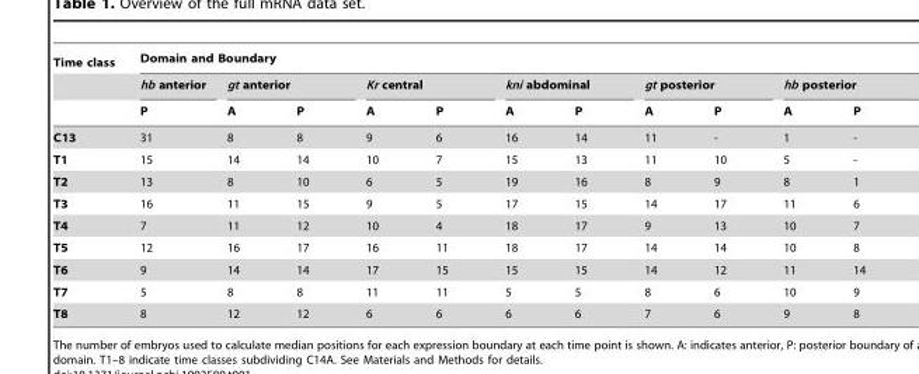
<table><thead><tr><td rowspan="3">Time class</td><td colspan="11">Domain and Boundary</td></tr><tr><td rowspan="2">hb anterior P</td><td colspan="2">gt anterior</td><td colspan="2">Kr central</td><td colspan="2">kni abdominal</td><td colspan="2">gt posterior</td><td colspan="2">hb posterior</td></tr><tr><td>A</td><td>P</td><td>A</td><td>P</td><td>A</td><td>P</td><td>A</td><td>P</td><td>A</td><td>P</td></tr></thead><tbody><tr><td>C13</td><td>31</td><td>8</td><td>8</td><td>9</td><td>6</td><td>16</td><td>14</td><td>11</td><td>-</td><td>1</td><td>-</td></tr><tr><td>T1</td><td>15</td><td>14</td><td>14</td><td>10</td><td>7</td><td>15</td><td>13</td><td>11</td><td>10</td><td>5</td><td>-</td></tr><tr><td>T2</td><td>13</td><td>8</td><td>10</td><td>6</td><td>5</td><td>19</td><td>16</td><td>8</td><td>9</td><td>8</td><td>1</td></tr><tr><td>T3</td><td>16</td><td>11</td><td>15</td><td>9</td><td>5</td><td>17</td><td>15</td><td>14</td><td>17</td><td>11</td><td>6</td></tr><tr><td>T4</td><td>7</td><td>11</td><td>12</td><td>10</td><td>4</td><td>18</td><td>17</td><td>9</td><td>13</td><td>10</td><td>7</td></tr><tr><td>T5</td><td>12</td><td>16</td><td>17</td><td>16</td><td>11</td><td>18</td><td>17</td><td>14</td><td>14</td><td>10</td><td>8</td></tr><tr><td>T6</td><td>9</td><td>14</td><td>14</td><td>17</td><td>15</td><td>15</td><td>15</td><td>14</td><td>12</td><td>11</td><td>14</td></tr><tr><td>T7</td><td>5</td><td>8</td><td>8</td><td>11</td><td>11</td><td>5</td><td>5</td><td>8</td><td>6</td><td>10</td><td>9</td></tr><tr><td>T8</td><td>8</td><td>12</td><td>12</td><td>6</td><td>6</td><td>6</td><td>6</td><td>7</td><td>6</td><td>9</td><td>8</td></tr></tbody></table>